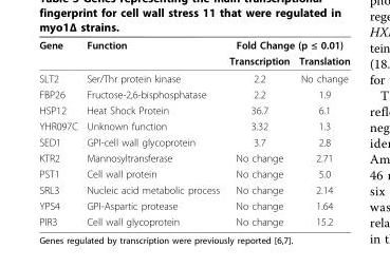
<table><thead><tr><td rowspan="2">Gene</td><td rowspan="2">Function</td><td colspan="2">Fold Change (p ≤ 0.01)</td></tr><tr><td>Transcription</td><td>Translation</td></tr></thead><tbody><tr><td>SLT2</td><td>Ser/Thr protein kinase</td><td>2.2</td><td>No change</td></tr><tr><td>FBP26</td><td>Fructose-2,6-bisphosphatase</td><td>2.2</td><td>1.9</td></tr><tr><td>HSP12</td><td>Heat Shock Protein</td><td>36.7</td><td>6.1</td></tr><tr><td>YHR097C</td><td>Unknown function</td><td>3.32</td><td>1.3</td></tr><tr><td>SED1</td><td>GPI-cell wall glycoprotein</td><td>3.7</td><td>2.8</td></tr><tr><td>KTR2</td><td>Mannosyltransferase</td><td>No change</td><td>2.71</td></tr><tr><td>PST1</td><td>Cell wall protein</td><td>No change</td><td>5.0</td></tr><tr><td>SRL3</td><td>Nucleic acid metabolic process</td><td>No change</td><td>2.14</td></tr><tr><td>YPS4</td><td>GPI-Aspartic protease</td><td>No change</td><td>1.64</td></tr><tr><td>PIR3</td><td>Cell wall glycoprotein</td><td>No change</td><td>15.2</td></tr></tbody></table>